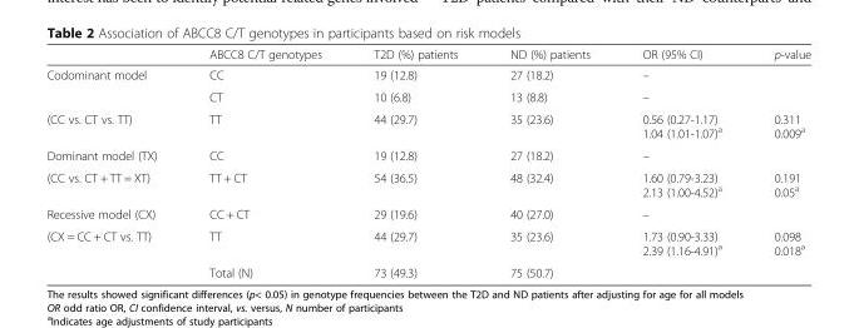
<table><thead><tr><td></td><td>ABCC8 C/T genotypes</td><td>T2D (%) patients</td><td>ND (%) patients</td><td>OR (95% CI)</td><td>p-value</td></tr></thead><tbody><tr><td rowspan="2">Codominant model</td><td>CC</td><td>19 (12.8)</td><td>27 (18.2)</td><td>–</td><td></td></tr><tr><td>CT</td><td>10 (6.8)</td><td>13 (8.8)</td><td>–</td><td></td></tr><tr><td>(CC vs. CT vs. TT)</td><td>TT</td><td>44 (29.7)</td><td>35 (23.6)</td><td>0.56 (0.27-1.17) 1.04 (1.01-1.07)<sup>a</sup></td><td>0.311 0.009<sup>a</sup></td></tr><tr><td>Dominant model (TX)</td><td>CC</td><td>19 (12.8)</td><td>27 (18.2)</td><td>–</td><td></td></tr><tr><td>(CC vs. CT + TT = XT)</td><td>TT + CT</td><td>54 (36.5)</td><td>48 (32.4)</td><td>1.60 (0.79-3.23) 2.13 (1.00-4.52)<sup>a</sup></td><td>0.191 0.05<sup>a</sup></td></tr><tr><td>Recessive model (CX)</td><td>CC + CT</td><td>29 (19.6)</td><td>40 (27.0)</td><td>–</td><td></td></tr><tr><td rowspan="2">(CX = CC + CT vs. TT)</td><td>TT</td><td>44 (29.7)</td><td>35 (23.6)</td><td>1.73 (0.90-3.33) 2.39 (1.16-4.91)<sup>a</sup></td><td>0.098 0.018<sup>a</sup></td></tr><tr><td>Total (N)</td><td>73 (49.3)</td><td>75 (50.7)</td><td></td><td></td></tr></tbody></table>